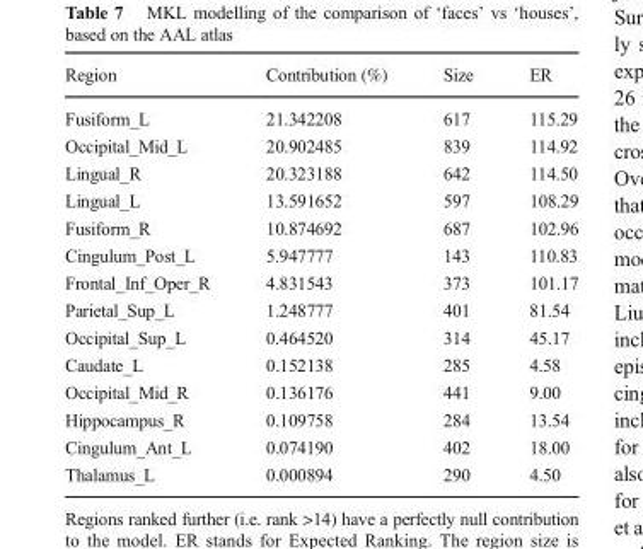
<table><thead><tr><td>Region</td><td>Contribution (%)</td><td>Size</td><td>ER</td></tr></thead><tbody><tr><td>Fusiform_L</td><td>21.342208</td><td>617</td><td>115.29</td></tr><tr><td>Occipital_Mid_L</td><td>20.902485</td><td>839</td><td>114.92</td></tr><tr><td>Lingual_R</td><td>20.323188</td><td>642</td><td>114.50</td></tr><tr><td>Lingual_L</td><td>13.591652</td><td>597</td><td>108.29</td></tr><tr><td>Fusiform_R</td><td>10.874692</td><td>687</td><td>102.96</td></tr><tr><td>Cingulum_Post_L</td><td>5.947777</td><td>143</td><td>110.83</td></tr><tr><td>Frontal_Inf_Oper_R</td><td>4.831543</td><td>373</td><td>101.17</td></tr><tr><td>Parietal_Sup_L</td><td>1.248777</td><td>401</td><td>81.54</td></tr><tr><td>Occipital_Sup_L</td><td>0.464520</td><td>314</td><td>45.17</td></tr><tr><td>Caudate_L</td><td>0.152138</td><td>285</td><td>4.58</td></tr><tr><td>Occipital_Mid_R</td><td>0.136176</td><td>441</td><td>9.00</td></tr><tr><td>Hippocampus_R</td><td>0.109758</td><td>284</td><td>13.54</td></tr><tr><td>Cingulum_Ant_L</td><td>0.074190</td><td>402</td><td>18.00</td></tr><tr><td>Thalamus_L</td><td>0.000894</td><td>290</td><td>4.50</td></tr></tbody></table>